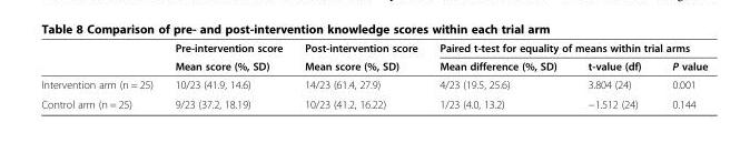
<table><thead><tr><td rowspan="2"></td><td rowspan="2">Pre-intervention score Mean score (%, SD)</td><td rowspan="2">Post-intervention score Mean score (%, SD)</td><td colspan="3">Paired t-test for equality of means within trial arms</td></tr><tr><td>Mean difference (%, SD)</td><td>t-value (df)</td><td>P value</td></tr></thead><tbody><tr><td>Intervention arm (n = 25)</td><td>10/23 (41.9, 14.6)</td><td>14/23 (61.4, 27.9)</td><td>4/23 (19.5, 25.6)</td><td>3.804 (24)</td><td>0.001</td></tr><tr><td>Control arm (n = 25)</td><td>9/23 (37.2, 18.19)</td><td>10/23 (41.2, 16.22)</td><td>1/23 (4.0, 13.2)</td><td>−1.512 (24)</td><td>0.144</td></tr></tbody></table>